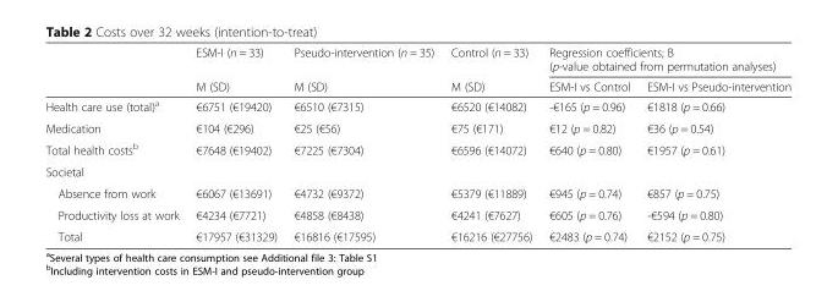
<table><thead><tr><td rowspan="2"></td><td rowspan="2">ESM-I (n = 33) M (SD)</td><td rowspan="2">Pseudo-intervention (n = 35) M (SD)</td><td rowspan="2">Control (n = 33) M (SD)</td><td colspan="2">Regression coefficients; B (p-value obtained from permutation analyses)</td></tr><tr><td>ESM-I vs Control</td><td>ESM-I vs Pseudo-intervention</td></tr></thead><tbody><tr><td>Health care use (total)<sup>a</sup></td><td>€6751 (€19420)</td><td>€6510 (€7315)</td><td>€6520 (€14082)</td><td>-€165 (p = 0.96)</td><td>€1818 (p = 0.66)</td></tr><tr><td>Medication</td><td>€104 (€296)</td><td>€25 (€56)</td><td>€75 (€171)</td><td>€12 (p = 0.82)</td><td>€36 (p = 0.54)</td></tr><tr><td>Total health costs<sup>b</sup></td><td>€7648 (€19402)</td><td>€7225 (€7304)</td><td>€6596 (€14072)</td><td>€640 (p = 0.80)</td><td>€1957 (p = 0.61)</td></tr><tr><td colspan="6">Societal</td></tr><tr><td>Absence from work</td><td>€6067 (€13691)</td><td>€4732 (€9372)</td><td>€5379 (€11889)</td><td>€945 (p = 0.74)</td><td>€857 (p = 0.75)</td></tr><tr><td>Productivity loss at work</td><td>€4234 (€7721)</td><td>€4858 (€8438)</td><td>€4241 (€7627)</td><td>€605 (p = 0.76)</td><td>-€594 (p = 0.80)</td></tr><tr><td>Total</td><td>€17957 (€31329)</td><td>€16816 (€17595)</td><td>€16216 (€27756)</td><td>€2483 (p = 0.74)</td><td>€2152 (p = 0.75)</td></tr></tbody></table>